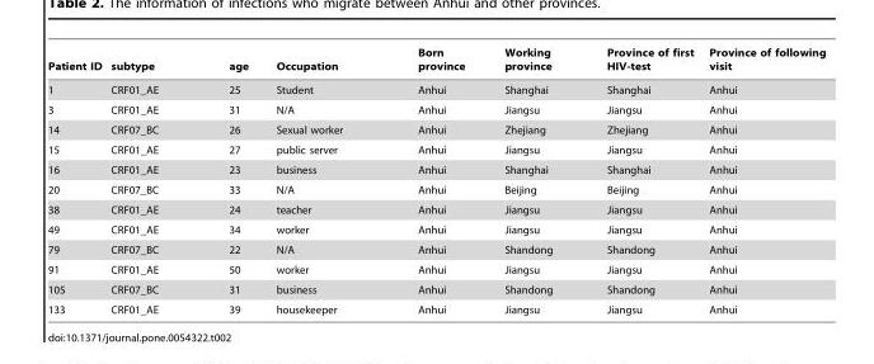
<table><thead><tr><td>Patient ID</td><td>subtype</td><td>age</td><td>Occupation</td><td>Born province</td><td>Working province</td><td>Province of first HIV-test</td><td>Province of following visit</td></tr></thead><tbody><tr><td>1</td><td>CRF01_AE</td><td>25</td><td>Student</td><td>Anhui</td><td>Shanghai</td><td>Shanghai</td><td>Anhui</td></tr><tr><td>3</td><td>CRF01_AE</td><td>31</td><td>N/A</td><td>Anhui</td><td>Jiangsu</td><td>Jiangsu</td><td>Anhui</td></tr><tr><td>14</td><td>CRF07_BC</td><td>26</td><td>Sexual worker</td><td>Anhui</td><td>Zhejiang</td><td>Zhejiang</td><td>Anhui</td></tr><tr><td>15</td><td>CRF01_AE</td><td>27</td><td>public server</td><td>Anhui</td><td>Jiangsu</td><td>Jiangsu</td><td>Anhui</td></tr><tr><td>16</td><td>CRF01_AE</td><td>23</td><td>business</td><td>Anhui</td><td>Shanghai</td><td>Shanghai</td><td>Anhui</td></tr><tr><td>20</td><td>CRF07_BC</td><td>33</td><td>N/A</td><td>Anhui</td><td>Beijing</td><td>Beijing</td><td>Anhui</td></tr><tr><td>38</td><td>CRF01_AE</td><td>24</td><td>teacher</td><td>Anhui</td><td>Jiangsu</td><td>Jiangsu</td><td>Anhui</td></tr><tr><td>49</td><td>CRF01_AE</td><td>34</td><td>worker</td><td>Anhui</td><td>Jiangsu</td><td>Jiangsu</td><td>Anhui</td></tr><tr><td>79</td><td>CRF07_BC</td><td>22</td><td>N/A</td><td>Anhui</td><td>Shandong</td><td>Shandong</td><td>Anhui</td></tr><tr><td>91</td><td>CRF01_AE</td><td>50</td><td>worker</td><td>Anhui</td><td>Jiangsu</td><td>Jiangsu</td><td>Anhui</td></tr><tr><td>105</td><td>CRF07_BC</td><td>31</td><td>business</td><td>Anhui</td><td>Shandong</td><td>Shandong</td><td>Anhui</td></tr><tr><td>133</td><td>CRF01_AE</td><td>39</td><td>housekeeper</td><td>Anhui</td><td>Jiangsu</td><td>Jiangsu</td><td>Anhui</td></tr></tbody></table>